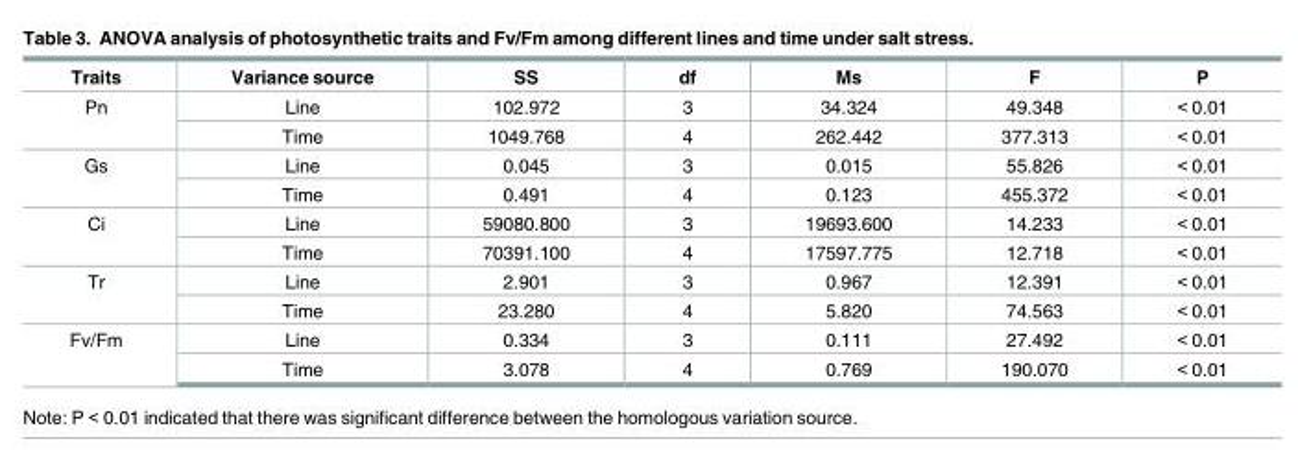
<table><thead><tr><td>Traits</td><td>Variance source</td><td>SS</td><td>df</td><td>Ms</td><td>F</td><td>P</td></tr></thead><tbody><tr><td rowspan="2">Pn</td><td>Line</td><td>102.972</td><td>3</td><td>34.324</td><td>49.348</td><td>&lt; 0.01</td></tr><tr><td>Time</td><td>1049.768</td><td>4</td><td>262.442</td><td>377.313</td><td>&lt; 0.01</td></tr><tr><td rowspan="2">Gs</td><td>Line</td><td>0.045</td><td>3</td><td>0.015</td><td>55.826</td><td>&lt; 0.01</td></tr><tr><td>Time</td><td>0.491</td><td>4</td><td>0.123</td><td>455.372</td><td>&lt; 0.01</td></tr><tr><td rowspan="2">Ci</td><td>Line</td><td>59080.800</td><td>3</td><td>19693.600</td><td>14.233</td><td>&lt; 0.01</td></tr><tr><td>Time</td><td>70391.100</td><td>4</td><td>17597.775</td><td>12.718</td><td>&lt; 0.01</td></tr><tr><td rowspan="2">Tr</td><td>Line</td><td>2.901</td><td>3</td><td>0.967</td><td>12.391</td><td>&lt; 0.01</td></tr><tr><td>Time</td><td>23.280</td><td>4</td><td>5.820</td><td>74.563</td><td>&lt; 0.01</td></tr><tr><td rowspan="2">Fv/Fm</td><td>Line</td><td>0.334</td><td>3</td><td>0.111</td><td>27.492</td><td>&lt; 0.01</td></tr><tr><td>Time</td><td>3.078</td><td>4</td><td>0.769</td><td>190.070</td><td>&lt; 0.01</td></tr></tbody></table>